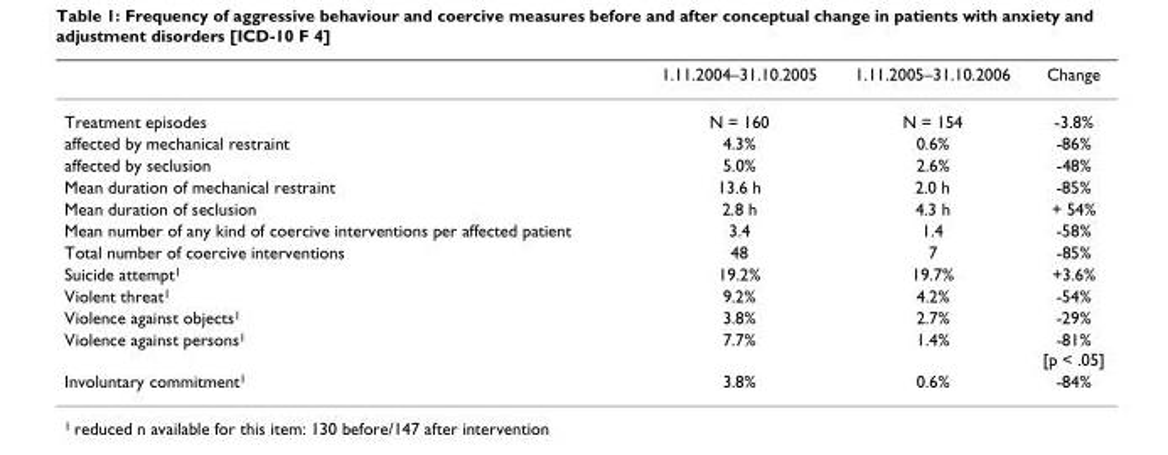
<table><thead><tr><td></td><td>1.11.2004–31.10.2005</td><td>1.11.2005–31.10.2006</td><td>Change</td></tr></thead><tbody><tr><td>Treatment episodes</td><td>N = 160</td><td>N = 154</td><td>-3.8%</td></tr><tr><td>affected by mechanical restraint</td><td>4.3%</td><td>0.6%</td><td>-86%</td></tr><tr><td>affected by seclusion</td><td>5.0%</td><td>2.6%</td><td>-48%</td></tr><tr><td>Mean duration of mechanical restraint</td><td>13.6 h</td><td>2.0 h</td><td>-85%</td></tr><tr><td>Mean duration of seclusion</td><td>2.8 h</td><td>4.3 h</td><td>+ 54%</td></tr><tr><td>Mean number of any kind of coercive interventions per affected patient</td><td>3.4</td><td>1.4</td><td>-58%</td></tr><tr><td>Total number of coercive interventions</td><td>48</td><td>7</td><td>-85%</td></tr><tr><td>Suicide attempt<sup>1</sup></td><td>19.2%</td><td>19.7%</td><td>+3.6%</td></tr><tr><td>Violent threat<sup>1</sup></td><td>9.2%</td><td>4.2%</td><td>-54%</td></tr><tr><td>Violence against objects<sup>1</sup></td><td>3.8%</td><td>2.7%</td><td>-29%</td></tr><tr><td>Violence against persons<sup>1</sup></td><td>7.7%</td><td>1.4%</td><td>-81% [p &lt; .05]</td></tr><tr><td>Involuntary commitment<sup>1</sup></td><td>3.8%</td><td>0.6%</td><td>-84%</td></tr></tbody></table>